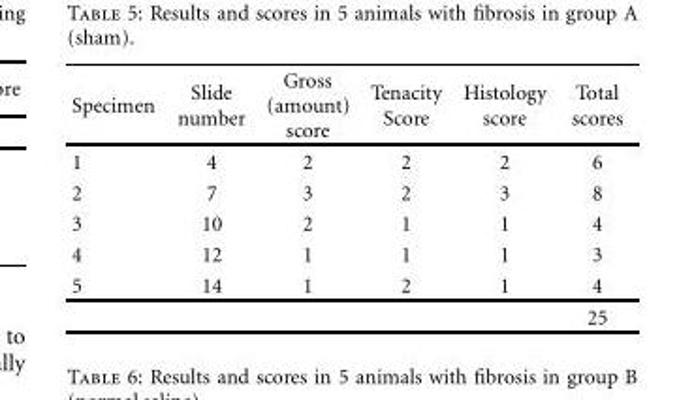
<table><thead><tr><td>Specimen</td><td>Slide number</td><td>Gross (amount) score</td><td>Tenacity Score</td><td>Histology score</td><td>Total scores</td></tr></thead><tbody><tr><td>1</td><td>4</td><td>2</td><td>2</td><td>2</td><td>6</td></tr><tr><td>2</td><td>7</td><td>3</td><td>2</td><td>3</td><td>8</td></tr><tr><td>3</td><td>10</td><td>2</td><td>1</td><td>1</td><td>4</td></tr><tr><td>4</td><td>12</td><td>1</td><td>1</td><td>1</td><td>3</td></tr><tr><td rowspan="2">5</td><td>14</td><td>1</td><td>2</td><td>1</td><td>4</td></tr><tr><td></td><td></td><td></td><td></td><td>25</td></tr></tbody></table>